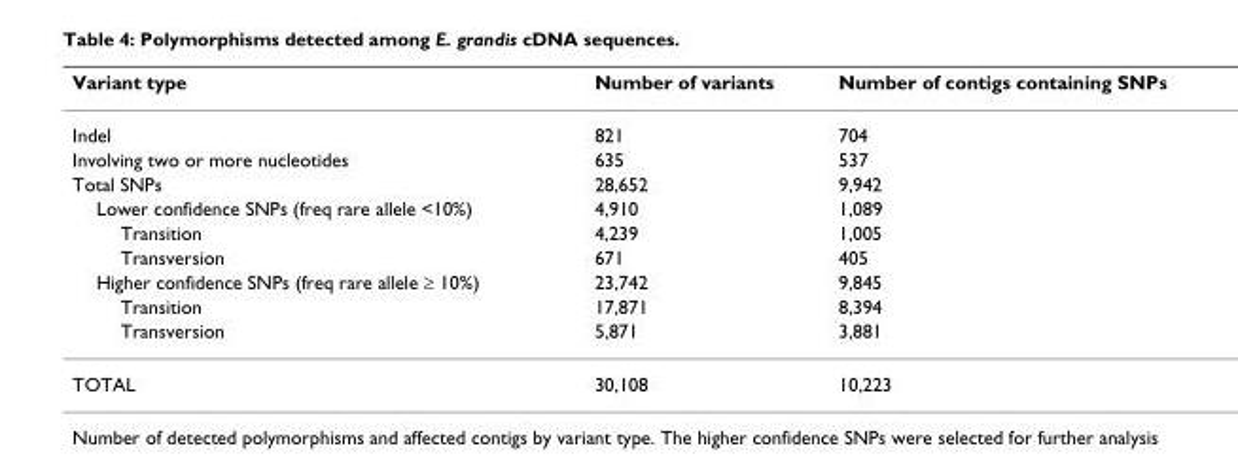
<table><thead><tr><td>Variant type</td><td>Number of variants</td><td>Number of contigs containing SNPs</td></tr></thead><tbody><tr><td>Indel</td><td>821</td><td>704</td></tr><tr><td>Involving two or more nucleotides</td><td>635</td><td>537</td></tr><tr><td>Total SNPs</td><td>28,652</td><td>9,942</td></tr><tr><td>Lower confidence SNPs (freq rare allele &lt;10%)</td><td>4,910</td><td>1,089</td></tr><tr><td>Transition</td><td>4,239</td><td>1,005</td></tr><tr><td>Transversion</td><td>671</td><td>405</td></tr><tr><td>Higher confidence SNPs (freq rare allele ≥ 10%)</td><td>23,742</td><td>9,845</td></tr><tr><td>Transition</td><td>17,871</td><td>8,394</td></tr><tr><td>Transversion</td><td>5,871</td><td>3,881</td></tr><tr><td>TOTAL</td><td>30,108</td><td>10,223</td></tr></tbody></table>